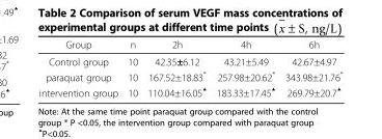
<table><thead><tr><td>Group</td><td>n</td><td>2h</td><td>4h</td><td>6h</td></tr></thead><tbody><tr><td>Control group</td><td>10</td><td>42.35±6.12</td><td>43.21±5.49</td><td>42.67±4.97</td></tr><tr><td>paraquat group</td><td>10</td><td>167.52±18.83*</td><td>257.98±20.62*</td><td>343.98±21.76*</td></tr><tr><td>intervention group</td><td>10</td><td>110.04±16.05<sup>▲</sup></td><td>183.33±17.45<sup>▲</sup></td><td>269.79±20.7<sup>▲</sup></td></tr></tbody></table>